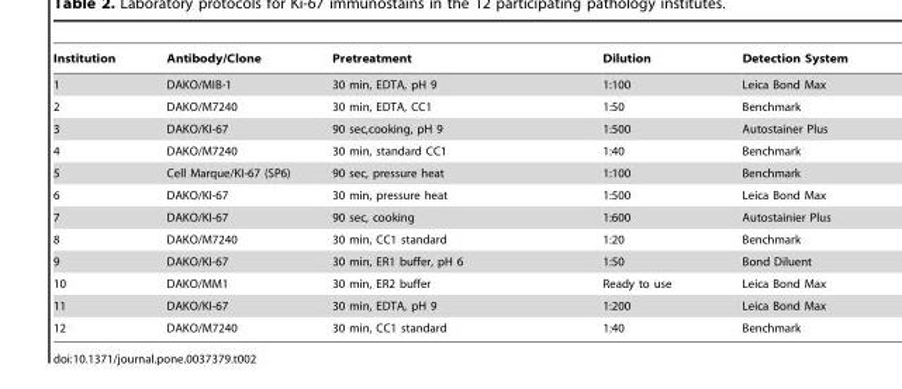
<table><thead><tr><td>Institution</td><td>Antibody/Clone</td><td>Pretreatment</td><td>Dilution</td><td>Detection System</td></tr></thead><tbody><tr><td>1</td><td>DAKO/MIB-1</td><td>30 min, EDTA, pH 9</td><td>1:100</td><td>Leica Bond Max</td></tr><tr><td>2</td><td>DAKO/M7240</td><td>30 min, EDTA, CC1</td><td>1:50</td><td>Benchmark</td></tr><tr><td>3</td><td>DAKO/KI-67</td><td>90 sec,cooking, pH 9</td><td>1:500</td><td>Autostainer Plus</td></tr><tr><td>4</td><td>DAKO/M7240</td><td>30 min, standard CC1</td><td>1:40</td><td>Benchmark</td></tr><tr><td>5</td><td>Cell Marque/KI-67 (SP6)</td><td>90 sec, pressure heat</td><td>1:100</td><td>Benchmark</td></tr><tr><td>6</td><td>DAKO/KI-67</td><td>30 min, pressure heat</td><td>1:500</td><td>Leica Bond Max</td></tr><tr><td>7</td><td>DAKO/KI-67</td><td>90 sec, cooking</td><td>1:600</td><td>Autostainier Plus</td></tr><tr><td>8</td><td>DAKO/M7240</td><td>30 min, CC1 standard</td><td>1:20</td><td>Benchmark</td></tr><tr><td>9</td><td>DAKO/KI-67</td><td>30 min, ER1 buffer, pH 6</td><td>1:50</td><td>Bond Diluent</td></tr><tr><td>10</td><td>DAKO/MM1</td><td>30 min, ER2 buffer</td><td>Ready to use</td><td>Leica Bond Max</td></tr><tr><td>11</td><td>DAKO/KI-67</td><td>30 min, EDTA, pH 9</td><td>1:200</td><td>Leica Bond Max</td></tr><tr><td>12</td><td>DAKO/M7240</td><td>30 min, CC1 standard</td><td>1:40</td><td>Benchmark</td></tr></tbody></table>